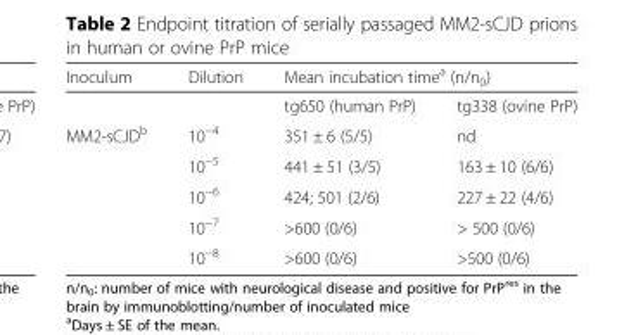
<table><thead><tr><td rowspan="2">Inoculum</td><td rowspan="2">Dilution</td><td colspan="2">Mean incubation time<sup>a</sup> (n/n<sub>0</sub>)</td></tr><tr><td>tg650 (human PrP)</td><td>tg338 (ovine PrP)</td></tr></thead><tbody><tr><td rowspan="5">MM2-sCJD<sup>b</sup></td><td>10<sup>−4</sup></td><td>351 ± 6 (5/5)</td><td>nd</td></tr><tr><td>10<sup>−5</sup></td><td>441 ± 51 (3/5)</td><td>163 ± 10 (6/6)</td></tr><tr><td>10<sup>−6</sup></td><td>424; 501 (2/6)</td><td>227 ± 22 (4/6)</td></tr><tr><td>10<sup>−7</sup></td><td>&gt;600 (0/6)</td><td>&gt; 500 (0/6)</td></tr><tr><td>10<sup>−8</sup></td><td>&gt;600 (0/6)</td><td>&gt;500 (0/6)</td></tr></tbody></table>